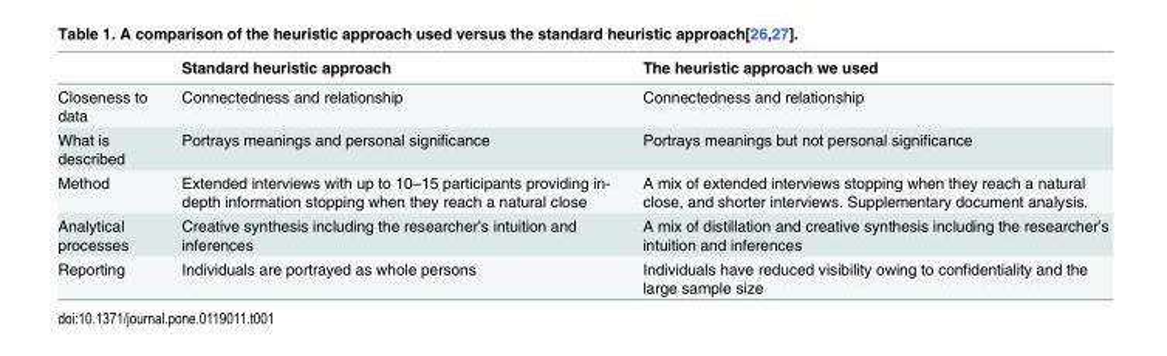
<table><thead><tr><td></td><td>Standard heuristic approach</td><td>The heuristic approach we used</td></tr></thead><tbody><tr><td>Closeness to data</td><td>Connectedness and relationship</td><td>Connectedness and relationship</td></tr><tr><td>What is described</td><td>Portrays meanings and personal significance</td><td>Portrays meanings but not personal significance</td></tr><tr><td>Method</td><td>Extended interviews with up to 10–15 participants providing in- depth information stopping when they reach a natural close</td><td>A mix of extended interviews stopping when they reach a natural close, and shorter interviews. Supplementary document analysis.</td></tr><tr><td>Analytical processes</td><td>Creative synthesis including the researcher’s intuition and inferences</td><td>A mix of distillation and creative synthesis including the researcher’s intuition and inferences</td></tr><tr><td>Reporting</td><td>Individuals are portrayed as whole persons</td><td>Individuals have reduced visibility owing to confidentiality and the large sample size</td></tr></tbody></table>